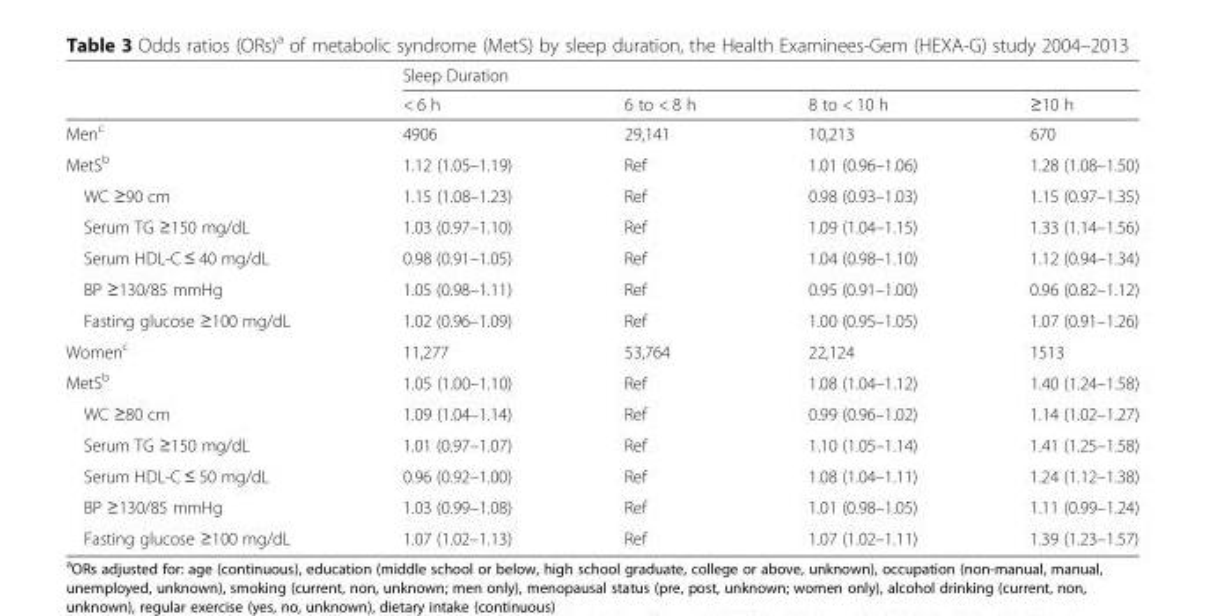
<table><thead><tr><td rowspan="2"></td><td colspan="4">Sleep Duration</td></tr><tr><td>&lt; 6 h</td><td>6 to &lt; 8 h</td><td>8 to &lt; 10 h</td><td>≥10 h</td></tr></thead><tbody><tr><td>Men<sup>c</sup></td><td>4906</td><td>29,141</td><td>10,213</td><td>670</td></tr><tr><td>MetS<sup>b</sup></td><td>1.12 (1.05–1.19)</td><td>Ref</td><td>1.01 (0.96–1.06)</td><td>1.28 (1.08–1.50)</td></tr><tr><td>WC ≥90 cm</td><td>1.15 (1.08–1.23)</td><td>Ref</td><td>0.98 (0.93–1.03)</td><td>1.15 (0.97–1.35)</td></tr><tr><td>Serum TG ≥150 mg/dL</td><td>1.03 (0.97–1.10)</td><td>Ref</td><td>1.09 (1.04–1.15)</td><td>1.33 (1.14–1.56)</td></tr><tr><td>Serum HDL-C ≤ 40 mg/dL</td><td>0.98 (0.91–1.05)</td><td>Ref</td><td>1.04 (0.98–1.10)</td><td>1.12 (0.94–1.34)</td></tr><tr><td>BP ≥130/85 mmHg</td><td>1.05 (0.98–1.11)</td><td>Ref</td><td>0.95 (0.91–1.00)</td><td>0.96 (0.82–1.12)</td></tr><tr><td>Fasting glucose ≥100 mg/dL</td><td>1.02 (0.96–1.09)</td><td>Ref</td><td>1.00 (0.95–1.05)</td><td>1.07 (0.91–1.26)</td></tr><tr><td>Women<sup>c</sup></td><td>11,277</td><td>53,764</td><td>22,124</td><td>1513</td></tr><tr><td>MetS<sup>b</sup></td><td>1.05 (1.00–1.10)</td><td>Ref</td><td>1.08 (1.04–1.12)</td><td>1.40 (1.24–1.58)</td></tr><tr><td>WC ≥80 cm</td><td>1.09 (1.04–1.14)</td><td>Ref</td><td>0.99 (0.96–1.02)</td><td>1.14 (1.02–1.27)</td></tr><tr><td>Serum TG ≥150 mg/dL</td><td>1.01 (0.97–1.07)</td><td>Ref</td><td>1.10 (1.05–1.14)</td><td>1.41 (1.25–1.58)</td></tr><tr><td>Serum HDL-C ≤ 50 mg/dL</td><td>0.96 (0.92–1.00)</td><td>Ref</td><td>1.08 (1.04–1.11)</td><td>1.24 (1.12–1.38)</td></tr><tr><td>BP ≥130/85 mmHg</td><td>1.03 (0.99–1.08)</td><td>Ref</td><td>1.01 (0.98–1.05)</td><td>1.11 (0.99–1.24)</td></tr><tr><td>Fasting glucose ≥100 mg/dL</td><td>1.07 (1.02–1.13)</td><td>Ref</td><td>1.07 (1.02–1.11)</td><td>1.39 (1.23–1.57)</td></tr></tbody></table>